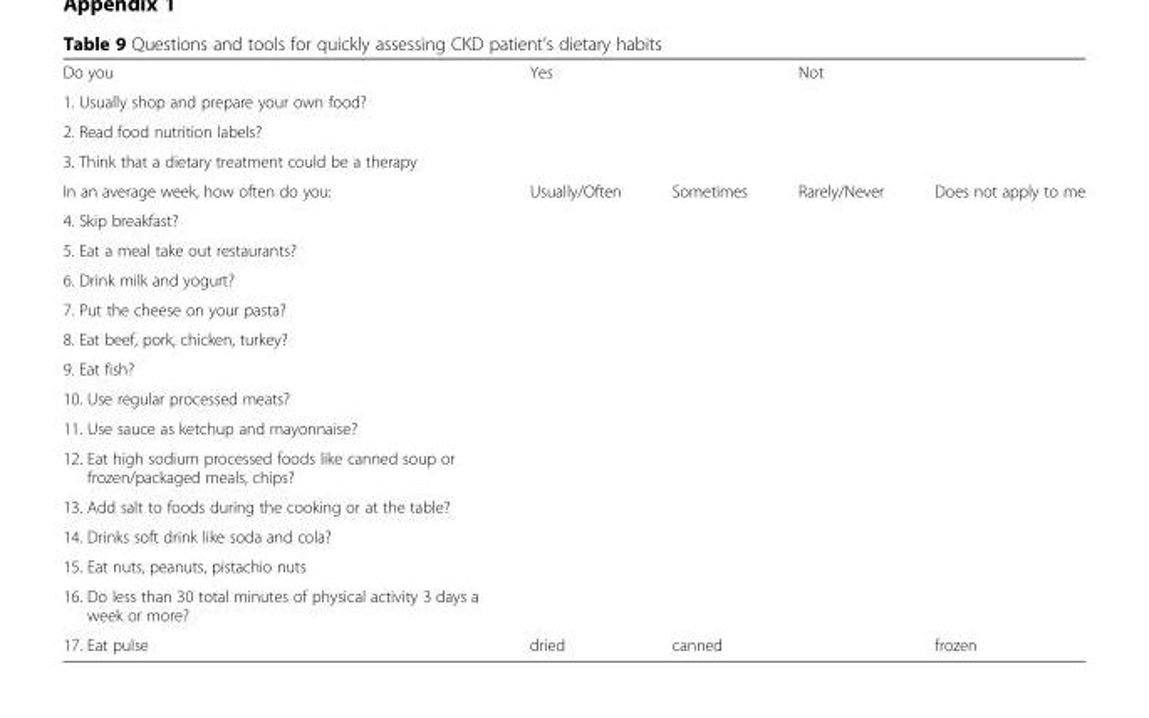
<table><tbody><tr><td>Do you</td><td colspan="2">Yes</td><td colspan="2">Not</td></tr><tr><td colspan="5">1. Usually shop and prepare your own food?</td></tr><tr><td colspan="5">2. Read food nutrition labels?</td></tr><tr><td colspan="5">3. Think that a dietary treatment could be a therapy</td></tr><tr><td>In an average week, how often do you:</td><td>Usually/Often</td><td>Sometimes</td><td>Rarely/Never</td><td>Does not apply to me</td></tr><tr><td colspan="5">4. Skip breakfast?</td></tr><tr><td colspan="5">5. Eat a meal take out restaurants?</td></tr><tr><td colspan="5">6. Drink milk and yogurt?</td></tr><tr><td colspan="5">7. Put the cheese on your pasta?</td></tr><tr><td colspan="5">8. Eat beef, pork, chicken, turkey?</td></tr><tr><td colspan="5">9. Eat fish?</td></tr><tr><td colspan="5">10. Use regular processed meats?</td></tr><tr><td colspan="5">11. Use sauce as ketchup and mayonnaise?</td></tr><tr><td colspan="5">12. Eat high sodium processed foods like canned soup or frozen/packaged meals, chips?</td></tr><tr><td colspan="5">13. Add salt to foods during the cooking or at the table?</td></tr><tr><td colspan="5">14. Drinks soft drink like soda and cola?</td></tr><tr><td colspan="5">15. Eat nuts, peanuts, pistachio nuts</td></tr><tr><td colspan="5">16. Do less than 30 total minutes of physical activity 3 days a week or more?</td></tr><tr><td>17. Eat pulse</td><td>dried</td><td colspan="2">canned</td><td>frozen</td></tr></tbody></table>